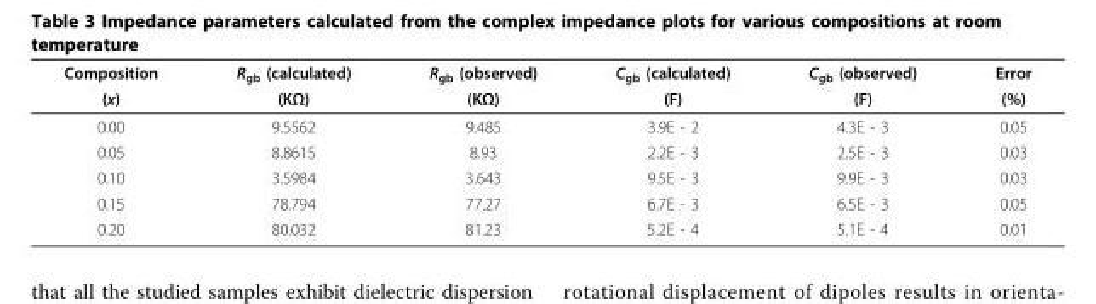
<table><thead><tr><td rowspan="2">Composition (x)</td><td rowspan="2">R<sub>gb</sub> (calculated) (KΩ)</td><td rowspan="2">R<sub>gb</sub> (observed) (KΩ)</td><td rowspan="2">C<sub>gb</sub> (calculated) (F)</td><td rowspan="2">C<sub>gb</sub> (observed) (F)</td><td rowspan="2">Error (%)</td></tr><tr></tr></thead><tbody><tr><td>0.00</td><td>9.5562</td><td>9.485</td><td>3.9E - 2</td><td>4.3E - 3</td><td>0.05</td></tr><tr><td>0.05</td><td>8.8615</td><td>8.93</td><td>2.2E - 3</td><td>2.5E - 3</td><td>0.03</td></tr><tr><td>0.10</td><td>3.5984</td><td>3.643</td><td>9.5E - 3</td><td>9.9E - 3</td><td>0.03</td></tr><tr><td>0.15</td><td>78.794</td><td>77.27</td><td>6.7E - 3</td><td>6.5E - 3</td><td>0.05</td></tr><tr><td>0.20</td><td>80.032</td><td>81.23</td><td>5.2E - 4</td><td>5.1E - 4</td><td>0.01</td></tr></tbody></table>